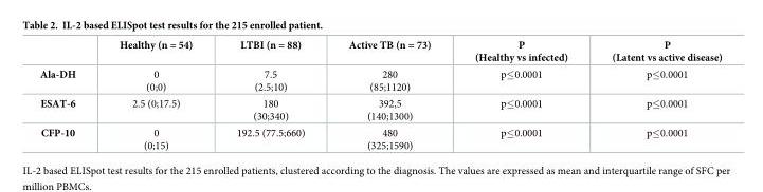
<table><thead><tr><td></td><td>Healthy (n = 54)</td><td>LTBI (n = 88)</td><td>Active TB (n = 73)</td><td>P (Healthy vs infected)</td><td>P (Latent vs active disease)</td></tr></thead><tbody><tr><td>Ala-DH</td><td>0 (0;0)</td><td>7.5 (2.5;10)</td><td>280 (85;1120)</td><td>p≤0.0001</td><td>p≤0.0001</td></tr><tr><td>ESAT-6</td><td>2.5 (0;17.5)</td><td>180 (30;340)</td><td>392,5 (140;1300)</td><td>p≤0.0001</td><td>p≤0.0001</td></tr><tr><td>CFP-10</td><td>0 (0;15)</td><td>192.5 (77.5;660)</td><td>480 (325;1590)</td><td>p≤0.0001</td><td>p≤0.0001</td></tr></tbody></table>